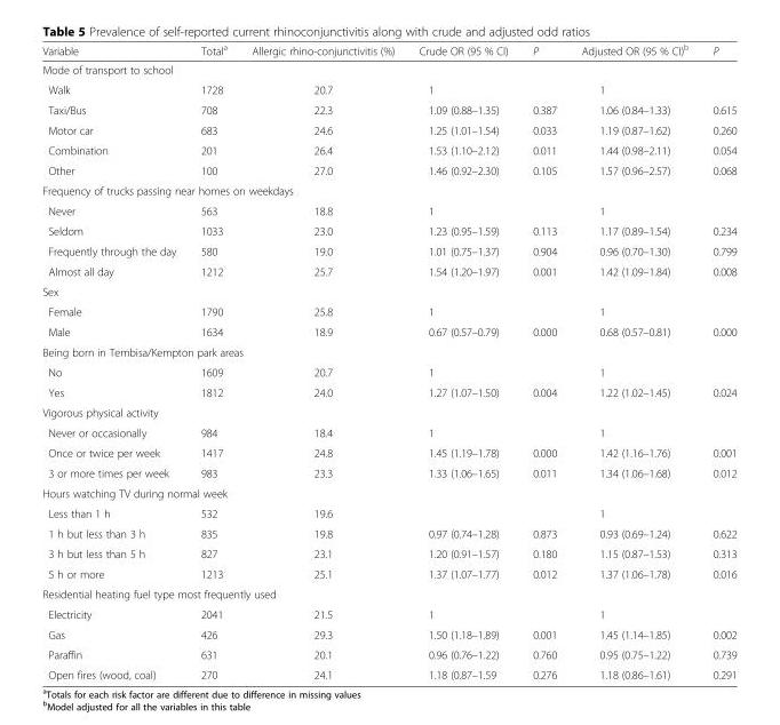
<table><thead><tr><td>Variable</td><td>Total<sup>a</sup></td><td>Allergic rhino-conjunctivitis (%)</td><td>Crude OR (95 % CI)</td><td>P</td><td>Adjusted OR (95 % CI)<sup>b</sup></td><td>P</td></tr></thead><tbody><tr><td colspan="7">Mode of transport to school</td></tr><tr><td>Walk</td><td>1728</td><td>20.7</td><td>1</td><td></td><td>1</td><td></td></tr><tr><td>Taxi/Bus</td><td>708</td><td>22.3</td><td>1.09 (0.88–1.35)</td><td>0.387</td><td>1.06 (0.84–1.33)</td><td>0.615</td></tr><tr><td>Motor car</td><td>683</td><td>24.6</td><td>1.25 (1.01–1.54)</td><td>0.033</td><td>1.19 (0.87–1.62)</td><td>0.260</td></tr><tr><td>Combination</td><td>201</td><td>26.4</td><td>1.53 (1.10–2.12)</td><td>0.011</td><td>1.44 (0.98–2.11)</td><td>0.054</td></tr><tr><td>Other</td><td>100</td><td>27.0</td><td>1.46 (0.92–2.30)</td><td>0.105</td><td>1.57 (0.96–2.57)</td><td>0.068</td></tr><tr><td colspan="7">Frequency of trucks passing near homes on weekdays</td></tr><tr><td>Never</td><td>563</td><td>18.8</td><td>1</td><td></td><td>1</td><td></td></tr><tr><td>Seldom</td><td>1033</td><td>23.0</td><td>1.23 (0.95–1.59)</td><td>0.113</td><td>1.17 (0.89–1.54)</td><td>0.234</td></tr><tr><td>Frequently through the day</td><td>580</td><td>19.0</td><td>1.01 (0.75–1.37)</td><td>0.904</td><td>0.96 (0.70–1.30)</td><td>0.799</td></tr><tr><td>Almost all day</td><td>1212</td><td>25.7</td><td>1.54 (1.20–1.97)</td><td>0.001</td><td>1.42 (1.09–1.84)</td><td>0.008</td></tr><tr><td colspan="7">Sex</td></tr><tr><td>Female</td><td>1790</td><td>25.8</td><td>1</td><td></td><td>1</td><td></td></tr><tr><td>Male</td><td>1634</td><td>18.9</td><td>0.67 (0.57–0.79)</td><td>0.000</td><td>0.68 (0.57–0.81)</td><td>0.000</td></tr><tr><td colspan="7">Being born in Tembisa/Kempton park areas</td></tr><tr><td>No</td><td>1609</td><td>20.7</td><td>1</td><td></td><td>1</td><td></td></tr><tr><td>Yes</td><td>1812</td><td>24.0</td><td>1.27 (1.07–1.50)</td><td>0.004</td><td>1.22 (1.02–1.45)</td><td>0.024</td></tr><tr><td colspan="7">Vigorous physical activity</td></tr><tr><td>Never or occasionally</td><td>984</td><td>18.4</td><td>1</td><td></td><td>1</td><td></td></tr><tr><td>Once or twice per week</td><td>1417</td><td>24.8</td><td>1.45 (1.19–1.78)</td><td>0.000</td><td>1.42 (1.16–1.76)</td><td>0.001</td></tr><tr><td>3 or more times per week</td><td>983</td><td>23.3</td><td>1.33 (1.06–1.65)</td><td>0.011</td><td>1.34 (1.06–1.68)</td><td>0.012</td></tr><tr><td colspan="7">Hours watching TV during normal week</td></tr><tr><td>Less than 1 h</td><td>532</td><td>19.6</td><td></td><td></td><td>1</td><td></td></tr><tr><td>1 h but less than 3 h</td><td>835</td><td>19.8</td><td>0.97 (0.74–1.28)</td><td>0.873</td><td>0.93 (0.69–1.24)</td><td>0.622</td></tr><tr><td>3 h but less than 5 h</td><td>827</td><td>23.1</td><td>1.20 (0.91–1.57)</td><td>0.180</td><td>1.15 (0.87–1.53)</td><td>0.313</td></tr><tr><td>5 h or more</td><td>1213</td><td>25.1</td><td>1.37 (1.07–1.77)</td><td>0.012</td><td>1.37 (1.06–1.78)</td><td>0.016</td></tr><tr><td colspan="7">Residential heating fuel type most frequently used</td></tr><tr><td>Electricity</td><td>2041</td><td>21.5</td><td>1</td><td></td><td>1</td><td></td></tr><tr><td>Gas</td><td>426</td><td>29.3</td><td>1.50 (1.18–1.89)</td><td>0.001</td><td>1.45 (1.14–1.85)</td><td>0.002</td></tr><tr><td>Paraffin</td><td>631</td><td>20.1</td><td>0.96 (0.76–1.22)</td><td>0.760</td><td>0.95 (0.75–1.22)</td><td>0.739</td></tr><tr><td>Open fires (wood, coal)</td><td>270</td><td>24.1</td><td>1.18 (0.87–1.59</td><td>0.276</td><td>1.18 (0.86–1.61)</td><td>0.291</td></tr></tbody></table>